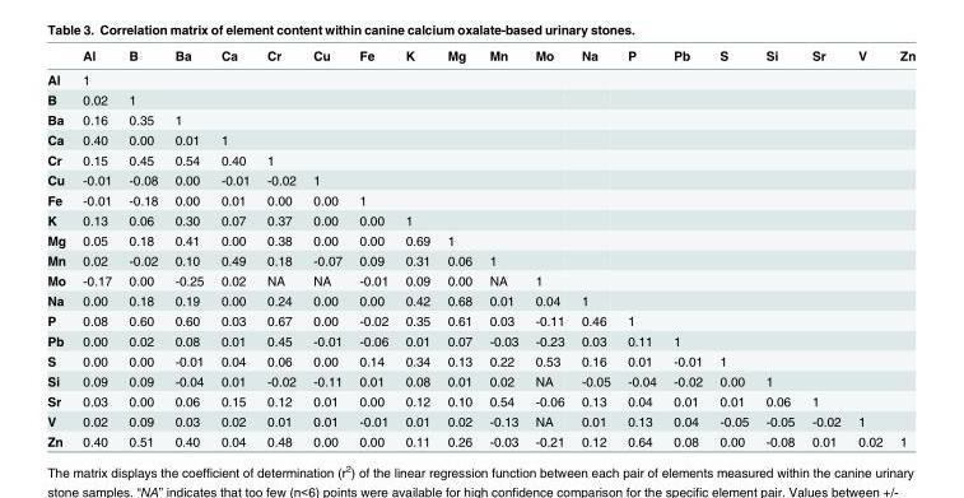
<table><thead><tr><td></td><td>Al</td><td>B</td><td>Ba</td><td>Ca</td><td>Cr</td><td>Cu</td><td>Fe</td><td>K</td><td>Mg</td><td>Mn</td><td>Mo</td><td>Na</td><td>P</td><td>Pb</td><td>S</td><td>Si</td><td>Sr</td><td>V</td><td>Zn</td></tr></thead><tbody><tr><td>Al</td><td>1</td><td></td><td></td><td></td><td></td><td></td><td></td><td></td><td></td><td></td><td></td><td></td><td></td><td></td><td></td><td></td><td></td><td></td><td></td></tr><tr><td>B</td><td>0.02</td><td>1</td><td></td><td></td><td></td><td></td><td></td><td></td><td></td><td></td><td></td><td></td><td></td><td></td><td></td><td></td><td></td><td></td><td></td></tr><tr><td>Ba</td><td>0.16</td><td>0.35</td><td>1</td><td></td><td></td><td></td><td></td><td></td><td></td><td></td><td></td><td></td><td></td><td></td><td></td><td></td><td></td><td></td><td></td></tr><tr><td>Ca</td><td>0.40</td><td>0.00</td><td>0.01</td><td>1</td><td></td><td></td><td></td><td></td><td></td><td></td><td></td><td></td><td></td><td></td><td></td><td></td><td></td><td></td><td></td></tr><tr><td>Cr</td><td>0.15</td><td>0.45</td><td>0.54</td><td>0.40</td><td>1</td><td></td><td></td><td></td><td></td><td></td><td></td><td></td><td></td><td></td><td></td><td></td><td></td><td></td><td></td></tr><tr><td>Cu</td><td>-0.01</td><td>-0.08</td><td>0.00</td><td>-0.01</td><td>-0.02</td><td>1</td><td></td><td></td><td></td><td></td><td></td><td></td><td></td><td></td><td></td><td></td><td></td><td></td><td></td></tr><tr><td>Fe</td><td>-0.01</td><td>-0.18</td><td>0.00</td><td>0.01</td><td>0.00</td><td>0.00</td><td>1</td><td></td><td></td><td></td><td></td><td></td><td></td><td></td><td></td><td></td><td></td><td></td><td></td></tr><tr><td>K</td><td>0.13</td><td>0.06</td><td>0.30</td><td>0.07</td><td>0.37</td><td>0.00</td><td>0.00</td><td>1</td><td></td><td></td><td></td><td></td><td></td><td></td><td></td><td></td><td></td><td></td><td></td></tr><tr><td>Mg</td><td>0.05</td><td>0.18</td><td>0.41</td><td>0.00</td><td>0.38</td><td>0.00</td><td>0.00</td><td>0.69</td><td>1</td><td></td><td></td><td></td><td></td><td></td><td></td><td></td><td></td><td></td><td></td></tr><tr><td>Mn</td><td>0.02</td><td>-0.02</td><td>0.10</td><td>0.49</td><td>0.18</td><td>-0.07</td><td>0.09</td><td>0.31</td><td>0.06</td><td>1</td><td></td><td></td><td></td><td></td><td></td><td></td><td></td><td></td><td></td></tr><tr><td>Mo</td><td>-0.17</td><td>0.00</td><td>-0.25</td><td>0.02</td><td>NA</td><td>NA</td><td>-0.01</td><td>0.09</td><td>0.00</td><td>NA</td><td>1</td><td></td><td></td><td></td><td></td><td></td><td></td><td></td><td></td></tr><tr><td>Na</td><td>0.00</td><td>0.18</td><td>0.19</td><td>0.00</td><td>0.24</td><td>0.00</td><td>0.00</td><td>0.42</td><td>0.68</td><td>0.01</td><td>0.04</td><td>1</td><td></td><td></td><td></td><td></td><td></td><td></td><td></td></tr><tr><td>P</td><td>0.08</td><td>0.60</td><td>0.60</td><td>0.03</td><td>0.67</td><td>0.00</td><td>-0.02</td><td>0.35</td><td>0.61</td><td>0.03</td><td>-0.11</td><td>0.46</td><td>1</td><td></td><td></td><td></td><td></td><td></td><td></td></tr><tr><td>Pb</td><td>0.00</td><td>0.02</td><td>0.08</td><td>0.01</td><td>0.45</td><td>-0.01</td><td>-0.06</td><td>0.01</td><td>0.07</td><td>-0.03</td><td>-0.23</td><td>0.03</td><td>0.11</td><td>1</td><td></td><td></td><td></td><td></td><td></td></tr><tr><td>S</td><td>0.00</td><td>0.00</td><td>-0.01</td><td>0.04</td><td>0.06</td><td>0.00</td><td>0.14</td><td>0.34</td><td>0.13</td><td>0.22</td><td>0.53</td><td>0.16</td><td>0.01</td><td>-0.01</td><td>1</td><td></td><td></td><td></td><td></td></tr><tr><td>Si</td><td>0.09</td><td>0.09</td><td>-0.04</td><td>0.01</td><td>-0.02</td><td>-0.11</td><td>0.01</td><td>0.08</td><td>0.01</td><td>0.02</td><td>NA</td><td>-0.05</td><td>-0.04</td><td>-0.02</td><td>0.00</td><td>1</td><td></td><td></td><td></td></tr><tr><td>Sr</td><td>0.03</td><td>0.00</td><td>0.06</td><td>0.15</td><td>0.12</td><td>0.01</td><td>0.00</td><td>0.12</td><td>0.10</td><td>0.54</td><td>-0.06</td><td>0.13</td><td>0.04</td><td>0.01</td><td>0.01</td><td>0.06</td><td>1</td><td></td><td></td></tr><tr><td>V</td><td>0.02</td><td>0.09</td><td>0.03</td><td>0.02</td><td>0.01</td><td>0.01</td><td>-0.01</td><td>0.01</td><td>0.02</td><td>-0.13</td><td>NA</td><td>0.01</td><td>0.13</td><td>0.04</td><td>-0.05</td><td>-0.05</td><td>-0.02</td><td>1</td><td></td></tr><tr><td>Zn</td><td>0.40</td><td>0.51</td><td>0.40</td><td>0.04</td><td>0.48</td><td>0.00</td><td>0.00</td><td>0.11</td><td>0.26</td><td>-0.03</td><td>-0.21</td><td>0.12</td><td>0.64</td><td>0.08</td><td>0.00</td><td>-0.08</td><td>0.01</td><td>0.02</td><td>1</td></tr></tbody></table>